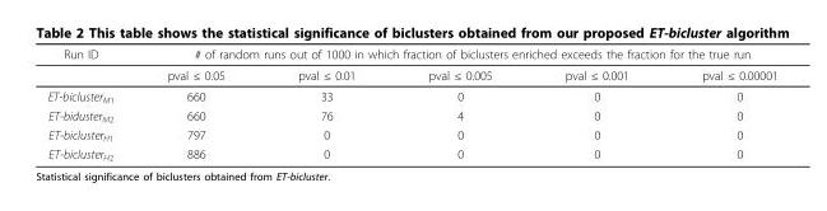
<table><thead><tr><td rowspan="2">Run ID</td><td colspan="5"># of random runs out of 1000 in which fraction of biclusters enriched exceeds the fraction for the true run</td></tr><tr><td>pval ≤ 0.05</td><td>pval ≤ 0.01</td><td>pval ≤ 0.005</td><td>pval ≤ 0.001</td><td>pval ≤ 0.00001</td></tr></thead><tbody><tr><td>ET-bicluster<sub>M1</sub></td><td>660</td><td>33</td><td>0</td><td>0</td><td>0</td></tr><tr><td>ET-biduster<sub>M2</sub></td><td>660</td><td>76</td><td>4</td><td>0</td><td>0</td></tr><tr><td>ET-bicluster<sub>H1</sub></td><td>797</td><td>0</td><td>0</td><td>0</td><td>0</td></tr><tr><td>ET-bicluster<sub>H2</sub></td><td>886</td><td>0</td><td>0</td><td>0</td><td>0</td></tr></tbody></table>